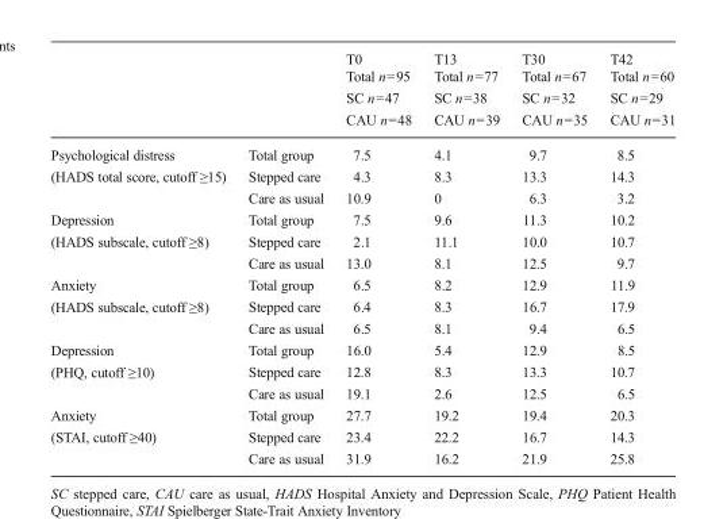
<table><thead><tr><td rowspan="2"></td><td rowspan="2"></td><td rowspan="2">T0 Total n=95 SC n=47 CAU n=48</td><td rowspan="2">T13 Total n=77 SC n=38 CAU n=39</td><td rowspan="2">T30 Total n=67 SC n=32 CAU n=35</td><td rowspan="2">T42 Total n=60 SC n=29 CAU n=31</td></tr><tr></tr></thead><tbody><tr><td rowspan="3">Psychological distress (HADS total score, cutoff ≥15)</td><td>Total group</td><td>7.5</td><td>4.1</td><td>9.7</td><td>8.5</td></tr><tr><td>Stepped care</td><td>4.3</td><td>8.3</td><td>13.3</td><td>14.3</td></tr><tr><td>Care as usual</td><td>10.9</td><td>0</td><td>6.3</td><td>3.2</td></tr><tr><td rowspan="3">Depression (HADS subscale, cutoff ≥8)</td><td>Total group</td><td>7.5</td><td>9.6</td><td>11.3</td><td>10.2</td></tr><tr><td>Stepped care</td><td>2.1</td><td>11.1</td><td>10.0</td><td>10.7</td></tr><tr><td>Care as usual</td><td>13.0</td><td>8.1</td><td>12.5</td><td>9.7</td></tr><tr><td rowspan="3">Anxiety (HADS subscale, cutoff ≥8)</td><td>Total group</td><td>6.5</td><td>8.2</td><td>12.9</td><td>11.9</td></tr><tr><td>Stepped care</td><td>6.4</td><td>8.3</td><td>16.7</td><td>17.9</td></tr><tr><td>Care as usual</td><td>6.5</td><td>8.1</td><td>9.4</td><td>6.5</td></tr><tr><td rowspan="3">Depression (PHQ, cutoff ≥10)</td><td>Total group</td><td>16.0</td><td>5.4</td><td>12.9</td><td>8.5</td></tr><tr><td>Stepped care</td><td>12.8</td><td>8.3</td><td>13.3</td><td>10.7</td></tr><tr><td>Care as usual</td><td>19.1</td><td>2.6</td><td>12.5</td><td>6.5</td></tr><tr><td rowspan="3">Anxiety (STAI, cutoff ≥40)</td><td>Total group</td><td>27.7</td><td>19.2</td><td>19.4</td><td>20.3</td></tr><tr><td>Stepped care</td><td>23.4</td><td>22.2</td><td>16.7</td><td>14.3</td></tr><tr><td>Care as usual</td><td>31.9</td><td>16.2</td><td>21.9</td><td>25.8</td></tr></tbody></table>